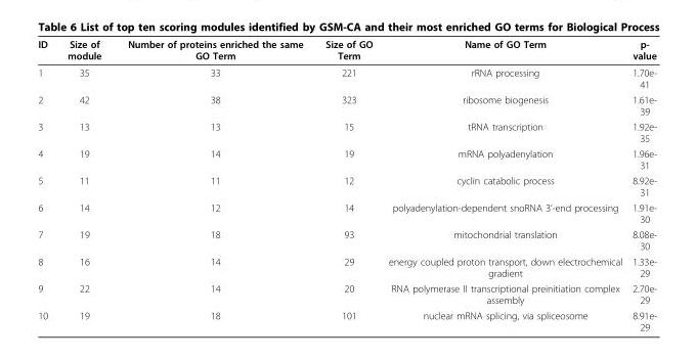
<table><thead><tr><td>ID</td><td>Size of module</td><td>Number of proteins enriched the same GO Term</td><td>Size of GO Term</td><td>Name of GO Term</td><td>p- value</td></tr></thead><tbody><tr><td>1</td><td>35</td><td>33</td><td>221</td><td>rRNA processing</td><td>1.70e- 41</td></tr><tr><td>2</td><td>42</td><td>38</td><td>323</td><td>ribosome biogenesis</td><td>1.61e- 39</td></tr><tr><td>3</td><td>13</td><td>13</td><td>15</td><td>tRNA transcription</td><td>1.92e- 35</td></tr><tr><td>4</td><td>19</td><td>14</td><td>19</td><td>mRNA polyadenylation</td><td>1.96e- 31</td></tr><tr><td>5</td><td>11</td><td>11</td><td>12</td><td>cyclin catabolic process</td><td>8.92e- 31</td></tr><tr><td>6</td><td>14</td><td>12</td><td>14</td><td>polyadenylation-dependent snoRNA 3’-end processing</td><td>1.91e- 30</td></tr><tr><td>7</td><td>19</td><td>18</td><td>93</td><td>mitochondrial translation</td><td>8.08e- 30</td></tr><tr><td>8</td><td>16</td><td>14</td><td>29</td><td>energy coupled proton transport, down electrochemical gradient</td><td>1.33e- 29</td></tr><tr><td>9</td><td>22</td><td>14</td><td>20</td><td>RNA polymerase II transcriptional preinitiation complex assembly</td><td>2.70e- 29</td></tr><tr><td>10</td><td>19</td><td>18</td><td>101</td><td>nuclear mRNA splicing, via spliceosome</td><td>8.91e-</td></tr></tbody></table>